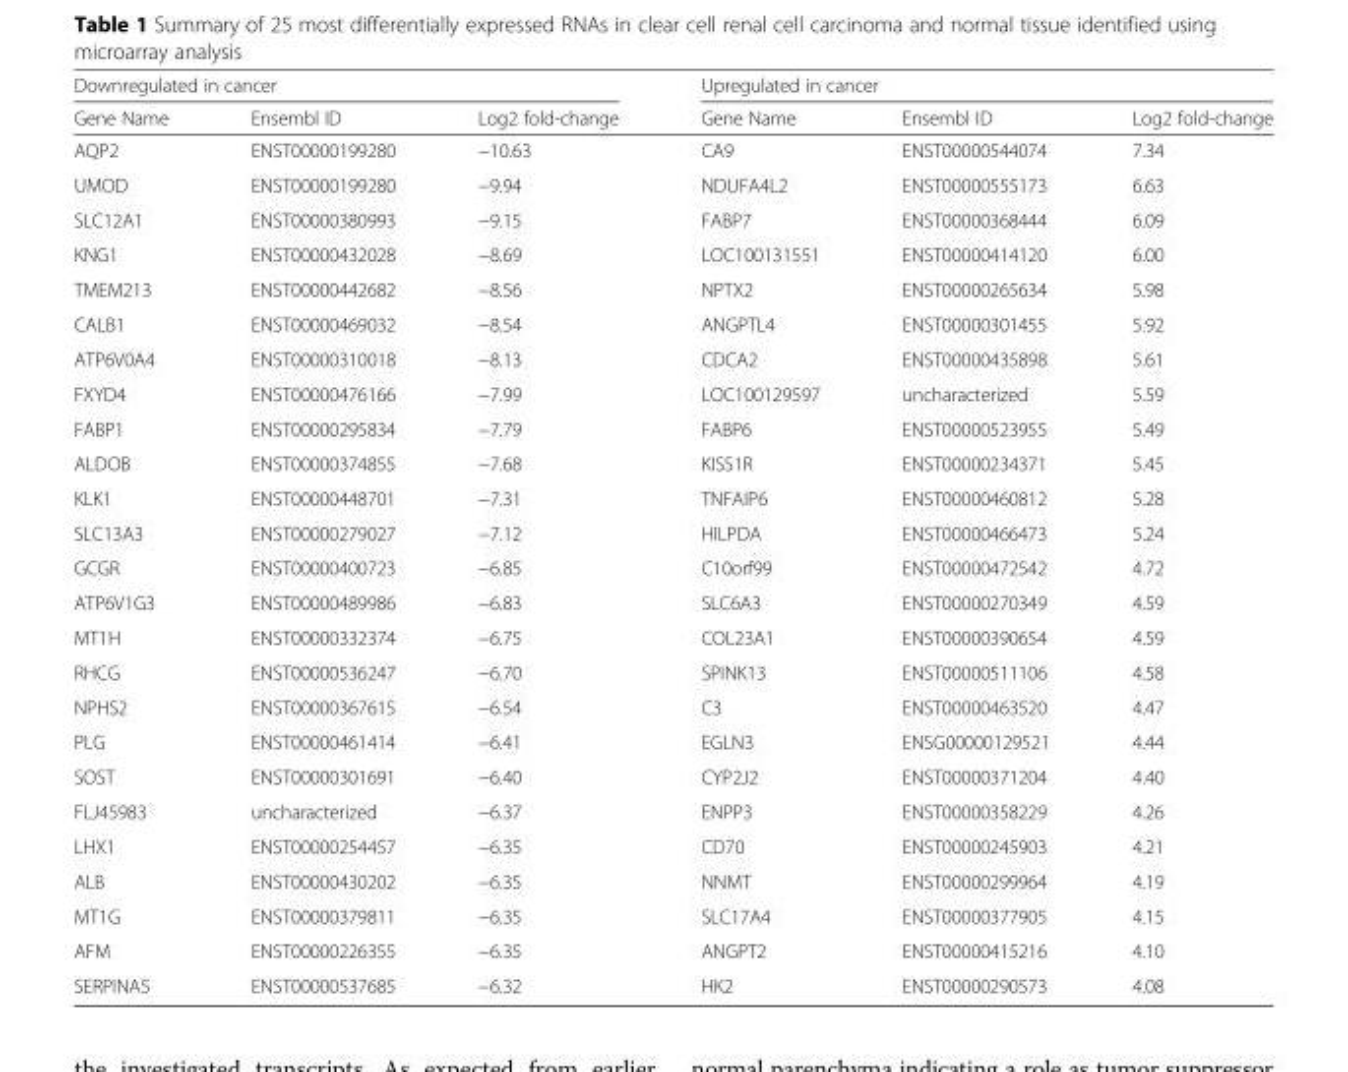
<table><thead><tr><td colspan="3">Downregulated in cancer</td><td colspan="3">Upregulated in cancer</td></tr><tr><td>Gene Name</td><td>Ensembl ID</td><td>Log2 fold-change</td><td>Gene Name</td><td>Ensembl ID</td><td>Log2 fold-change</td></tr></thead><tbody><tr><td>AQP2</td><td>ENST00000199280</td><td>−10.63</td><td>CA9</td><td>ENST00000544074</td><td>7.34</td></tr><tr><td>UMOD</td><td>ENST00000199280</td><td>−9.94</td><td>NDUFA4L2</td><td>ENST00000555173</td><td>6.63</td></tr><tr><td>SLC12A1</td><td>ENST00000380993</td><td>−9.15</td><td>FABP7</td><td>ENST00000368444</td><td>6.09</td></tr><tr><td>KNG1</td><td>ENST00000432028</td><td>−8.69</td><td>LOC100131551</td><td>ENST00000414120</td><td>6.00</td></tr><tr><td>TMEM213</td><td>ENST00000442682</td><td>−8.56</td><td>NPTX2</td><td>ENST00000265634</td><td>5.98</td></tr><tr><td>CALB1</td><td>ENST00000469032</td><td>−8.54</td><td>ANGPTL4</td><td>ENST00000301455</td><td>5.92</td></tr><tr><td>ATP6V0A4</td><td>ENST00000310018</td><td>−8.13</td><td>CDCA2</td><td>ENST00000435898</td><td>5.61</td></tr><tr><td>FXYD4</td><td>ENST00000476166</td><td>−7.99</td><td>LOC100129597</td><td>uncharacterized</td><td>5.59</td></tr><tr><td>FABP1</td><td>ENST00000295834</td><td>−7.79</td><td>FABP6</td><td>ENST00000523955</td><td>5.49</td></tr><tr><td>ALDOB</td><td>ENST00000374855</td><td>−7.68</td><td>KISS1R</td><td>ENST00000234371</td><td>5.45</td></tr><tr><td>KLK1</td><td>ENST00000448701</td><td>−7.31</td><td>TNFAIP6</td><td>ENST00000460812</td><td>5.28</td></tr><tr><td>SLC13A3</td><td>ENST00000279027</td><td>−7.12</td><td>HILPDA</td><td>ENST00000466473</td><td>5.24</td></tr><tr><td>GCGR</td><td>ENST00000400723</td><td>−6.85</td><td>C10orf99</td><td>ENST00000472542</td><td>4.72</td></tr><tr><td>ATP6V1G3</td><td>ENST00000489986</td><td>−6.83</td><td>SLC6A3</td><td>ENST00000270349</td><td>4.59</td></tr><tr><td>MT1H</td><td>ENST00000332374</td><td>−6.75</td><td>COL23A1</td><td>ENST00000390654</td><td>4.59</td></tr><tr><td>RHCG</td><td>ENST00000536247</td><td>−6.70</td><td>SPINK13</td><td>ENST00000511106</td><td>4.58</td></tr><tr><td>NPHS2</td><td>ENST00000367615</td><td>−6.54</td><td>C3</td><td>ENST00000463520</td><td>4.47</td></tr><tr><td>PLG</td><td>ENST00000461414</td><td>−6.41</td><td>EGLN3</td><td>ENSG00000129521</td><td>4.44</td></tr><tr><td>SOST</td><td>ENST00000301691</td><td>−6.40</td><td>CYP2J2</td><td>ENST00000371204</td><td>4.40</td></tr><tr><td>FLJ45983</td><td>uncharacterized</td><td>−6.37</td><td>ENPP3</td><td>ENST00000358229</td><td>4.26</td></tr><tr><td>LHX1</td><td>ENST00000254457</td><td>−6.35</td><td>CD70</td><td>ENST00000245903</td><td>4.21</td></tr><tr><td>ALB</td><td>ENST00000430202</td><td>−6.35</td><td>NNMT</td><td>ENST00000299964</td><td>4.19</td></tr><tr><td>MT1G</td><td>ENST00000379811</td><td>−6.35</td><td>SLC17A4</td><td>ENST00000377905</td><td>4.15</td></tr><tr><td>AFM</td><td>ENST00000226355</td><td>−6.35</td><td>ANGPT2</td><td>ENST00000415216</td><td>4.10</td></tr><tr><td>SERPINA5</td><td>ENST00000537685</td><td>−6.32</td><td>HK2</td><td>ENST00000290573</td><td>4.08</td></tr></tbody></table>